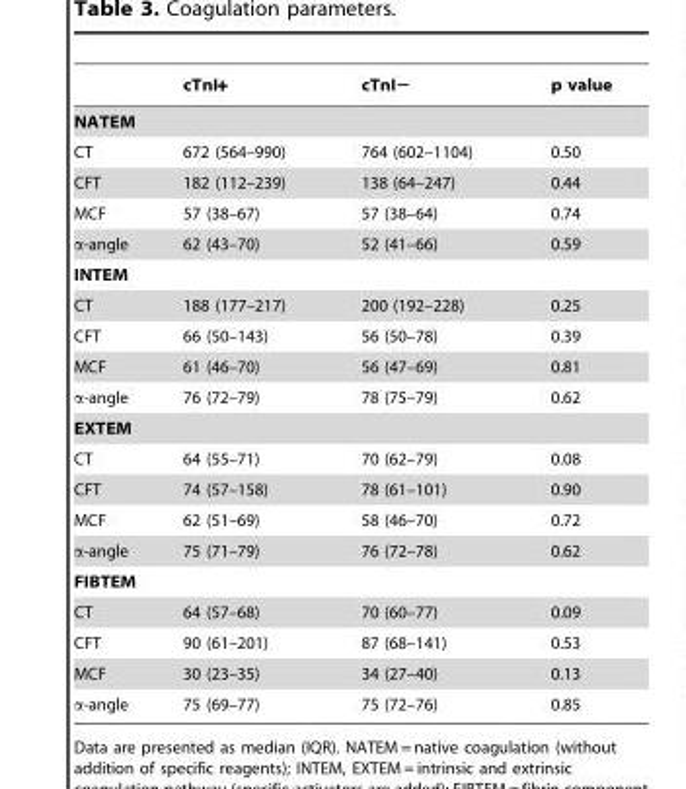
<table><thead><tr><td></td><td>cTnI+</td><td>cTnI−</td><td>p value</td></tr></thead><tbody><tr><td colspan="4">NATEM</td></tr><tr><td>CT</td><td>672 (564–990)</td><td>764 (602–1104)</td><td>0.50</td></tr><tr><td>CFT</td><td>182 (112–239)</td><td>138 (64–247)</td><td>0.44</td></tr><tr><td>MCF</td><td>57 (38–67)</td><td>57 (38–64)</td><td>0.74</td></tr><tr><td>α-angle</td><td>62 (43–70)</td><td>52 (41–66)</td><td>0.59</td></tr><tr><td colspan="4">INTEM</td></tr><tr><td>CT</td><td>188 (177–217)</td><td>200 (192–228)</td><td>0.25</td></tr><tr><td>CFT</td><td>66 (50–143)</td><td>56 (50–78)</td><td>0.39</td></tr><tr><td>MCF</td><td>61 (46–70)</td><td>56 (47–69)</td><td>0.81</td></tr><tr><td>α-angle</td><td>76 (72–79)</td><td>78 (75–79)</td><td>0.62</td></tr><tr><td colspan="4">EXTEM</td></tr><tr><td>CT</td><td>64 (55–71)</td><td>70 (62–79)</td><td>0.08</td></tr><tr><td>CFT</td><td>74 (57–158)</td><td>78 (61–101)</td><td>0.90</td></tr><tr><td>MCF</td><td>62 (51–69)</td><td>58 (46–70)</td><td>0.72</td></tr><tr><td>α-angle</td><td>75 (71–79)</td><td>76 (72–78)</td><td>0.62</td></tr><tr><td colspan="4">FIBTEM</td></tr><tr><td>CT</td><td>64 (57–68)</td><td>70 (60–77)</td><td>0.09</td></tr><tr><td>CFT</td><td>90 (61–201)</td><td>87 (68–141)</td><td>0.53</td></tr><tr><td>MCF</td><td>30 (23–35)</td><td>34 (27–40)</td><td>0.13</td></tr><tr><td>α-angle</td><td>75 (69–77)</td><td>75 (72–76)</td><td>0.85</td></tr></tbody></table>